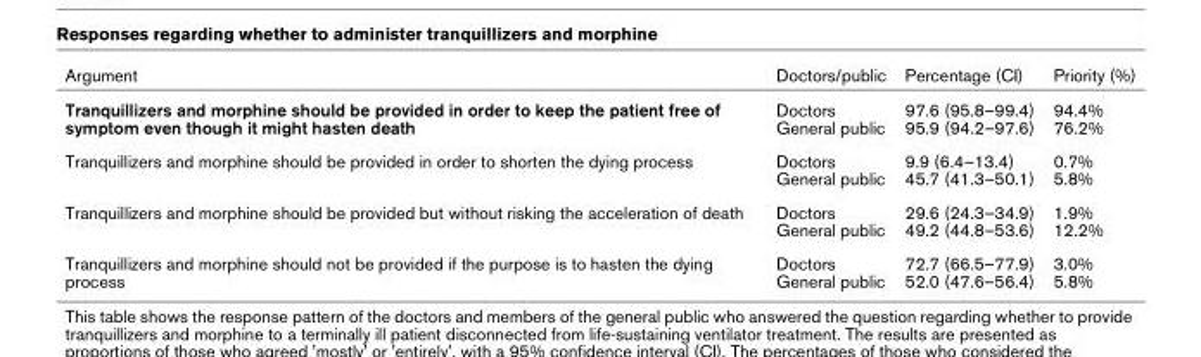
<table><thead><tr><td>Argument</td><td>Doctors/public</td><td>Percentage (CI)</td><td>Priority (%)</td></tr></thead><tbody><tr><td>Tranquillizers and morphine should be provided in order to keep the patient free of symptom even though it might hasten death</td><td>Doctors General public</td><td>97.6 (95.8–99.4) 95.9 (94.2–97.6)</td><td>94.4% 76.2%</td></tr><tr><td>Tranquillizers and morphine should be provided in order to shorten the dying process</td><td>Doctors General public</td><td>9.9 (6.4–13.4) 45.7 (41.3–50.1)</td><td>0.7% 5.8%</td></tr><tr><td>Tranquillizers and morphine should be provided but without risking the acceleration of death</td><td>Doctors General public</td><td>29.6 (24.3–34.9) 49.2 (44.8–53.6)</td><td>1.9% 12.2%</td></tr><tr><td>Tranquillizers and morphine should not be provided if the purpose is to hasten the dying process</td><td>Doctors General public</td><td>72.7 (66.5–77.9) 52.0 (47.6–56.4)</td><td>3.0% 5.8%</td></tr></tbody></table>